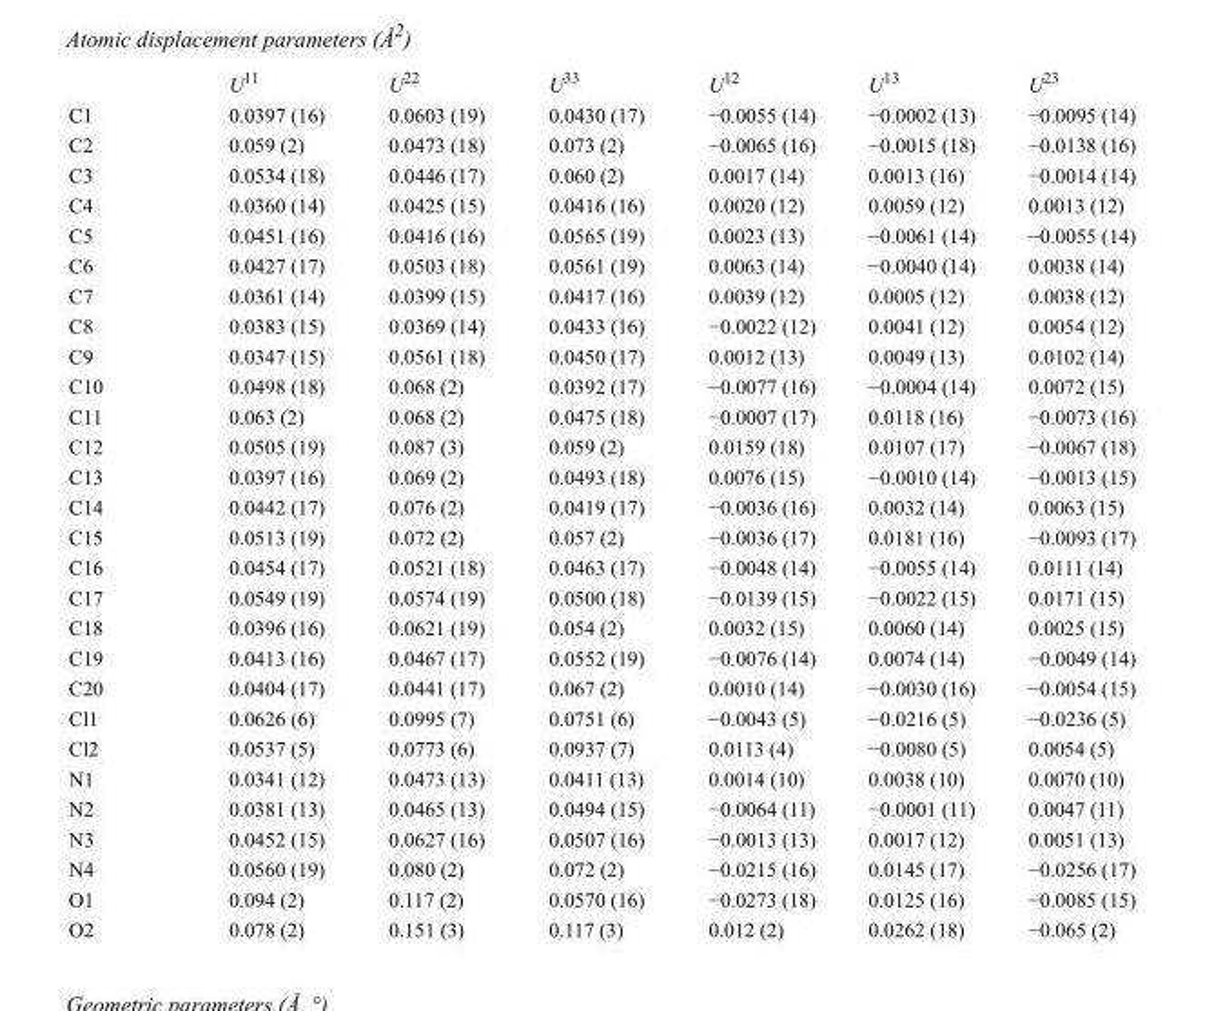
<table><thead><tr><td></td><td>U<sup>11</sup></td><td>U<sup>22</sup></td><td>U<sup>33</sup></td><td>U<sup>12</sup></td><td>U<sup>13</sup></td><td>U<sup>23</sup></td></tr></thead><tbody><tr><td>C1</td><td>0.0397 (16)</td><td>0.0603 (19)</td><td>0.0430 (17)</td><td>−0.0055 (14)</td><td>−0.0002 (13)</td><td>−0.0095 (14)</td></tr><tr><td>C2</td><td>0.059 (2)</td><td>0.0473 (18)</td><td>0.073 (2)</td><td>−0.0065 (16)</td><td>−0.0015 (18)</td><td>−0.0138 (16)</td></tr><tr><td>C3</td><td>0.0534 (18)</td><td>0.0446 (17)</td><td>0.060 (2)</td><td>0.0017 (14)</td><td>0.0013 (16)</td><td>−0.0014 (14)</td></tr><tr><td>C4</td><td>0.0360 (14)</td><td>0.0425 (15)</td><td>0.0416 (16)</td><td>0.0020 (12)</td><td>0.0059 (12)</td><td>0.0013 (12)</td></tr><tr><td>C5</td><td>0.0451 (16)</td><td>0.0416 (16)</td><td>0.0565 (19)</td><td>0.0023 (13)</td><td>−0.0061 (14)</td><td>−0.0055 (14)</td></tr><tr><td>C6</td><td>0.0427 (17)</td><td>0.0503 (18)</td><td>0.0561 (19)</td><td>0.0063 (14)</td><td>−0.0040 (14)</td><td>0.0038 (14)</td></tr><tr><td>C7</td><td>0.0361 (14)</td><td>0.0399 (15)</td><td>0.0417 (16)</td><td>0.0039 (12)</td><td>0.0005 (12)</td><td>0.0038 (12)</td></tr><tr><td>C8</td><td>0.0383 (15)</td><td>0.0369 (14)</td><td>0.0433 (16)</td><td>−0.0022 (12)</td><td>0.0041 (12)</td><td>0.0054 (12)</td></tr><tr><td>C9</td><td>0.0347 (15)</td><td>0.0561 (18)</td><td>0.0450 (17)</td><td>0.0012 (13)</td><td>0.0049 (13)</td><td>0.0102 (14)</td></tr><tr><td>C10</td><td>0.0498 (18)</td><td>0.068 (2)</td><td>0.0392 (17)</td><td>−0.0077 (16)</td><td>−0.0004 (14)</td><td>0.0072 (15)</td></tr><tr><td>C11</td><td>0.063 (2)</td><td>0.068 (2)</td><td>0.0475 (18)</td><td>−0.0007 (17)</td><td>0.0118 (16)</td><td>−0.0073 (16)</td></tr><tr><td>C12</td><td>0.0505 (19)</td><td>0.087 (3)</td><td>0.059 (2)</td><td>0.0159 (18)</td><td>0.0107 (17)</td><td>−0.0067 (18)</td></tr><tr><td>C13</td><td>0.0397 (16)</td><td>0.069 (2)</td><td>0.0493 (18)</td><td>0.0076 (15)</td><td>−0.0010 (14)</td><td>−0.0013 (15)</td></tr><tr><td>C14</td><td>0.0442 (17)</td><td>0.076 (2)</td><td>0.0419 (17)</td><td>−0.0036 (16)</td><td>0.0032 (14)</td><td>0.0063 (15)</td></tr><tr><td>C15</td><td>0.0513 (19)</td><td>0.072 (2)</td><td>0.057 (2)</td><td>−0.0036 (17)</td><td>0.0181 (16)</td><td>−0.0093 (17)</td></tr><tr><td>C16</td><td>0.0454 (17)</td><td>0.0521 (18)</td><td>0.0463 (17)</td><td>−0.0048 (14)</td><td>−0.0055 (14)</td><td>0.0111 (14)</td></tr><tr><td>C17</td><td>0.0549 (19)</td><td>0.0574 (19)</td><td>0.0500 (18)</td><td>−0.0139 (15)</td><td>−0.0022 (15)</td><td>0.0171 (15)</td></tr><tr><td>C18</td><td>0.0396 (16)</td><td>0.0621 (19)</td><td>0.054 (2)</td><td>0.0032 (15)</td><td>0.0060 (14)</td><td>0.0025 (15)</td></tr><tr><td>C19</td><td>0.0413 (16)</td><td>0.0467 (17)</td><td>0.0552 (19)</td><td>−0.0076 (14)</td><td>0.0074 (14)</td><td>−0.0049 (14)</td></tr><tr><td>C20</td><td>0.0404 (17)</td><td>0.0441 (17)</td><td>0.067 (2)</td><td>0.0010 (14)</td><td>−0.0030 (16)</td><td>−0.0054 (15)</td></tr><tr><td>Cl1</td><td>0.0626 (6)</td><td>0.0995 (7)</td><td>0.0751 (6)</td><td>−0.0043 (5)</td><td>−0.0216 (5)</td><td>−0.0236 (5)</td></tr><tr><td>Cl2</td><td>0.0537 (5)</td><td>0.0773 (6)</td><td>0.0937 (7)</td><td>0.0113 (4)</td><td>−0.0080 (5)</td><td>0.0054 (5)</td></tr><tr><td>N1</td><td>0.0341 (12)</td><td>0.0473 (13)</td><td>0.0411 (13)</td><td>0.0014 (10)</td><td>0.0038 (10)</td><td>0.0070 (10)</td></tr><tr><td>N2</td><td>0.0381 (13)</td><td>0.0465 (13)</td><td>0.0494 (15)</td><td>−0.0064 (11)</td><td>−0.0001 (11)</td><td>0.0047 (11)</td></tr><tr><td>N3</td><td>0.0452 (15)</td><td>0.0627 (16)</td><td>0.0507 (16)</td><td>−0.0013 (13)</td><td>0.0017 (12)</td><td>0.0051 (13)</td></tr><tr><td>N4</td><td>0.0560 (19)</td><td>0.080 (2)</td><td>0.072 (2)</td><td>−0.0215 (16)</td><td>0.0145 (17)</td><td>−0.0256 (17)</td></tr><tr><td>O1</td><td>0.094 (2)</td><td>0.117 (2)</td><td>0.0570 (16)</td><td>−0.0273 (18)</td><td>0.0125 (16)</td><td>−0.0085 (15)</td></tr><tr><td>O2</td><td>0.078 (2)</td><td>0.151 (3)</td><td>0.117 (3)</td><td>0.012 (2)</td><td>0.0262 (18)</td><td>−0.065 (2)</td></tr></tbody></table>